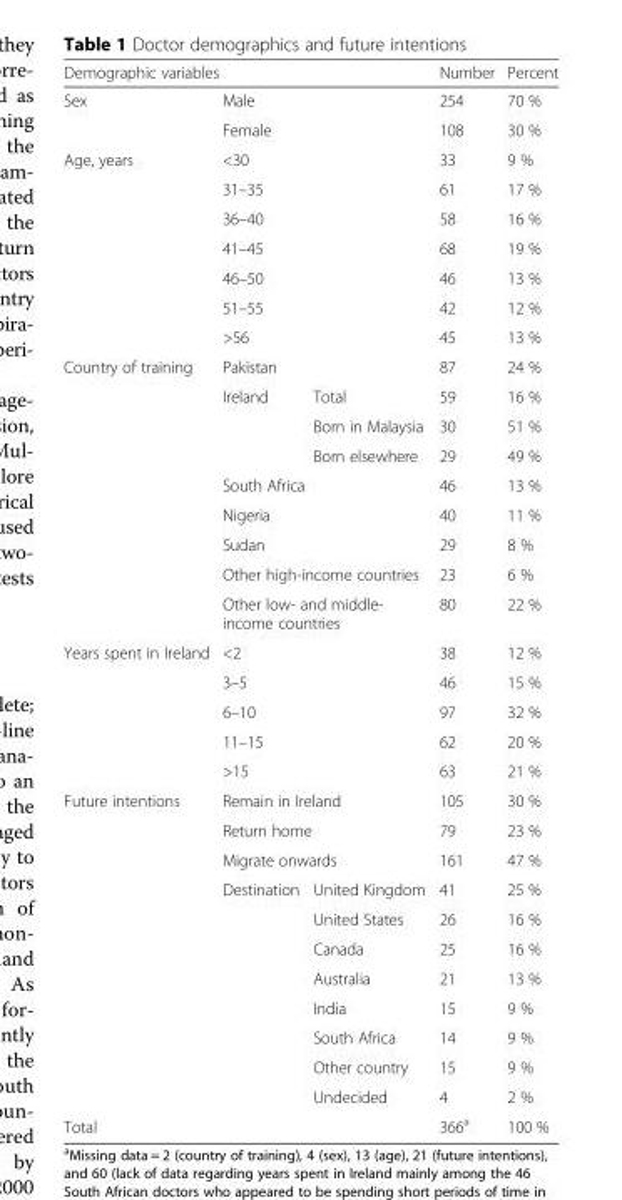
<table><thead><tr><td colspan="3">Demographic variables</td><td>Number</td><td>Percent</td></tr></thead><tbody><tr><td rowspan="2">Sex</td><td colspan="2">Male</td><td>254</td><td>70 %</td></tr><tr><td colspan="2">Female</td><td>108</td><td>30 %</td></tr><tr><td rowspan="7">Age, years</td><td colspan="2">&lt;30</td><td>33</td><td>9 %</td></tr><tr><td colspan="2">31–35</td><td>61</td><td>17 %</td></tr><tr><td colspan="2">36–40</td><td>58</td><td>16 %</td></tr><tr><td colspan="2">41–45</td><td>68</td><td>19 %</td></tr><tr><td colspan="2">46–50</td><td>46</td><td>13 %</td></tr><tr><td colspan="2">51–55</td><td>42</td><td>12 %</td></tr><tr><td colspan="2">&gt;56</td><td>45</td><td>13 %</td></tr><tr><td rowspan="9">Country of training</td><td colspan="2">Pakistan</td><td>87</td><td>24 %</td></tr><tr><td rowspan="3">Ireland</td><td>Total</td><td>59</td><td>16 %</td></tr><tr><td>Born in Malaysia</td><td>30</td><td>51 %</td></tr><tr><td>Born elsewhere</td><td>29</td><td>49 %</td></tr><tr><td colspan="2">South Africa</td><td>46</td><td>13 %</td></tr><tr><td colspan="2">Nigeria</td><td>40</td><td>11 %</td></tr><tr><td colspan="2">Sudan</td><td>29</td><td>8 %</td></tr><tr><td colspan="2">Other high-income countries</td><td>23</td><td>6 %</td></tr><tr><td colspan="2">Other low- and middle- income countries</td><td>80</td><td>22 %</td></tr><tr><td rowspan="5">Years spent in Ireland</td><td colspan="2">&lt;2</td><td>38</td><td>12 %</td></tr><tr><td colspan="2">3–5</td><td>46</td><td>15 %</td></tr><tr><td colspan="2">6–10</td><td>97</td><td>32 %</td></tr><tr><td colspan="2">11–15</td><td>62</td><td>20 %</td></tr><tr><td colspan="2">&gt;15</td><td>63</td><td>21 %</td></tr><tr><td rowspan="11">Future intentions</td><td colspan="2">Remain in Ireland</td><td>105</td><td>30 %</td></tr><tr><td colspan="2">Return home</td><td>79</td><td>23 %</td></tr><tr><td colspan="2">Migrate onwards</td><td>161</td><td>47 %</td></tr><tr><td rowspan="8">Destination</td><td>United Kingdom</td><td>41</td><td>25 %</td></tr><tr><td>United States</td><td>26</td><td>16 %</td></tr><tr><td>Canada</td><td>25</td><td>16 %</td></tr><tr><td>Australia</td><td>21</td><td>13 %</td></tr><tr><td>India</td><td>15</td><td>9 %</td></tr><tr><td>South Africa</td><td>14</td><td>9 %</td></tr><tr><td>Other country</td><td>15</td><td>9 %</td></tr><tr><td>Undecided</td><td>4</td><td>2 %</td></tr><tr><td colspan="3">Total</td><td>366<sup>a</sup></td><td>100 %</td></tr></tbody></table>